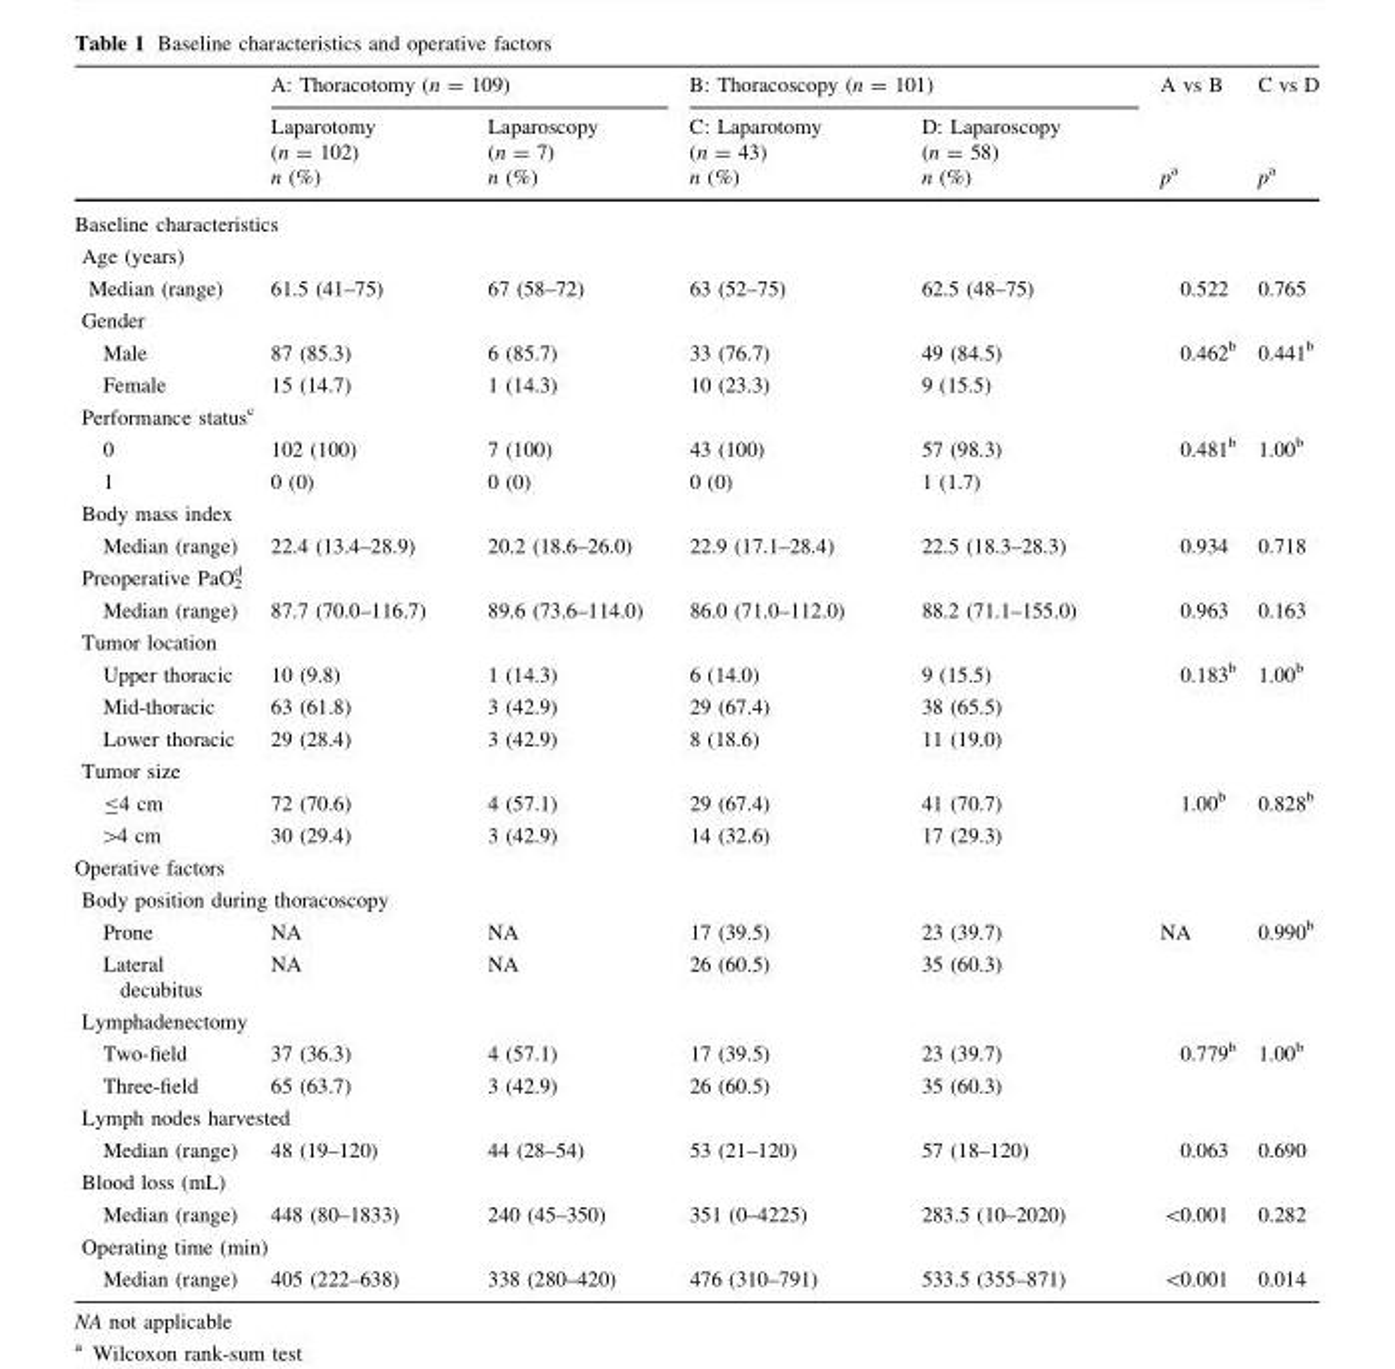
<table><thead><tr><td rowspan="3"></td><td colspan="2">A: Thoracotomy (n = 109)</td><td colspan="2">B: Thoracoscopy (n = 101)</td><td rowspan="3">A vs B p<sup>a</sup></td><td rowspan="3">C vs D p<sup>a</sup></td></tr><tr><td rowspan="2">Laparotomy (n = 102) n (%)</td><td rowspan="2">Laparoscopy (n = 7) n (%)</td><td rowspan="2">C: Laparotomy (n = 43) n (%)</td><td rowspan="2">D: Laparoscopy (n = 58) n (%)</td></tr><tr></tr></thead><tbody><tr><td colspan="7">Baseline characteristics</td></tr><tr><td colspan="7">Age (years)</td></tr><tr><td>Median (range)</td><td>61.5 (41–75)</td><td>67 (58–72)</td><td>63 (52–75)</td><td>62.5 (48–75)</td><td>0.522</td><td>0.765</td></tr><tr><td colspan="7">Gender</td></tr><tr><td>Male</td><td>87 (85.3)</td><td>6 (85.7)</td><td>33 (76.7)</td><td>49 (84.5)</td><td>0.462<sup>b</sup></td><td>0.441<sup>b</sup></td></tr><tr><td>Female</td><td>15 (14.7)</td><td>1 (14.3)</td><td>10 (23.3)</td><td>9 (15.5)</td><td></td><td></td></tr><tr><td colspan="7">Performance status<sup>c</sup></td></tr><tr><td>0</td><td>102 (100)</td><td>7 (100)</td><td>43 (100)</td><td>57 (98.3)</td><td>0.481<sup>b</sup></td><td>1.00<sup>b</sup></td></tr><tr><td>1</td><td>0 (0)</td><td>0 (0)</td><td>0 (0)</td><td>1 (1.7)</td><td></td><td></td></tr><tr><td colspan="7">Body mass index</td></tr><tr><td>Median (range)</td><td>22.4 (13.4–28.9)</td><td>20.2 (18.6–26.0)</td><td>22.9 (17.1–28.4)</td><td>22.5 (18.3–28.3)</td><td>0.934</td><td>0.718</td></tr><tr><td colspan="7">Preoperative PaO<sub>2</sub> <sup>d</sup></td></tr><tr><td>Median (range)</td><td>87.7 (70.0–116.7)</td><td>89.6 (73.6–114.0)</td><td>86.0 (71.0–112.0)</td><td>88.2 (71.1–155.0)</td><td>0.963</td><td>0.163</td></tr><tr><td colspan="7">Tumor location</td></tr><tr><td>Upper thoracic</td><td>10 (9.8)</td><td>1 (14.3)</td><td>6 (14.0)</td><td>9 (15.5)</td><td>0.183<sup>b</sup></td><td>1.00<sup>b</sup></td></tr><tr><td>Mid-thoracic</td><td>63 (61.8)</td><td>3 (42.9)</td><td>29 (67.4)</td><td>38 (65.5)</td><td></td><td></td></tr><tr><td>Lower thoracic</td><td>29 (28.4)</td><td>3 (42.9)</td><td>8 (18.6)</td><td>11 (19.0)</td><td></td><td></td></tr><tr><td colspan="7">Tumor size</td></tr><tr><td>≤4 cm</td><td>72 (70.6)</td><td>4 (57.1)</td><td>29 (67.4)</td><td>41 (70.7)</td><td>1.00<sup>b</sup></td><td>0.828<sup>b</sup></td></tr><tr><td>&gt;4 cm</td><td>30 (29.4)</td><td>3 (42.9)</td><td>14 (32.6)</td><td>17 (29.3)</td><td></td><td></td></tr><tr><td colspan="7">Operative factors</td></tr><tr><td colspan="7">Body position during thoracoscopy</td></tr><tr><td>Prone</td><td>NA</td><td>NA</td><td>17 (39.5)</td><td>23 (39.7)</td><td>NA</td><td>0.990<sup>b</sup></td></tr><tr><td>Lateral decubitus</td><td>NA</td><td>NA</td><td>26 (60.5)</td><td>35 (60.3)</td><td></td><td></td></tr><tr><td colspan="7">Lymphadenectomy</td></tr><tr><td>Two-field</td><td>37 (36.3)</td><td>4 (57.1)</td><td>17 (39.5)</td><td>23 (39.7)</td><td>0.779<sup>b</sup></td><td>1.00<sup>b</sup></td></tr><tr><td>Three-field</td><td>65 (63.7)</td><td>3 (42.9)</td><td>26 (60.5)</td><td>35 (60.3)</td><td></td><td></td></tr><tr><td colspan="7">Lymph nodes harvested</td></tr><tr><td>Median (range)</td><td>48 (19–120)</td><td>44 (28–54)</td><td>53 (21–120)</td><td>57 (18–120)</td><td>0.063</td><td>0.690</td></tr><tr><td colspan="7">Blood loss (mL)</td></tr><tr><td>Median (range)</td><td>448 (80–1833)</td><td>240 (45–350)</td><td>351 (0–4225)</td><td>283.5 (10–2020)</td><td>&lt;0.001</td><td>0.282</td></tr><tr><td colspan="7">Operating time (min)</td></tr><tr><td>Median (range)</td><td>405 (222–638)</td><td>338 (280–420)</td><td>476 (310–791)</td><td>533.5 (355–871)</td><td>&lt;0.001</td><td>0.014</td></tr></tbody></table>